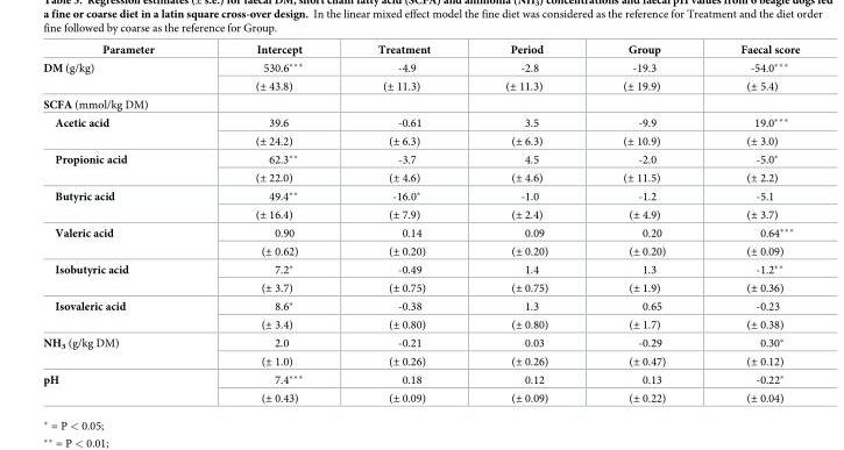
<table><thead><tr><td>Parameter</td><td>Intercept</td><td>Treatment</td><td>Period</td><td>Group</td><td>Faecal score</td></tr></thead><tbody><tr><td rowspan="2">DM (g/kg)</td><td>530.6***</td><td>-4.9</td><td>-2.8</td><td>-19.3</td><td>-54.0***</td></tr><tr><td>(± 43.8)</td><td>(± 11.3)</td><td>(± 11.3)</td><td>(± 19.9)</td><td>(± 5.4)</td></tr><tr><td colspan="6">SCFA (mmol/kg DM)</td></tr><tr><td rowspan="2">Acetic acid</td><td>39.6</td><td>-0.61</td><td>3.5</td><td>-9.9</td><td>19.0***</td></tr><tr><td>(± 24.2)</td><td>(± 6.3)</td><td>(± 6.3)</td><td>(± 10.9)</td><td>(± 3.0)</td></tr><tr><td rowspan="2">Propionic acid</td><td>62.3**</td><td>-3.7</td><td>4.5</td><td>-2.0</td><td>-5.0*</td></tr><tr><td>(± 22.0)</td><td>(± 4.6)</td><td>(± 4.6)</td><td>(± 11.5)</td><td>(± 2.2)</td></tr><tr><td rowspan="2">Butyric acid</td><td>49.4**</td><td>-16.0*</td><td>-1.0</td><td>-1.2</td><td>-5.1</td></tr><tr><td>(± 16.4)</td><td>(± 7.9)</td><td>(± 2.4)</td><td>(± 4.9)</td><td>(± 3.7)</td></tr><tr><td rowspan="2">Valeric acid</td><td>0.90</td><td>0.14</td><td>0.09</td><td>0.20</td><td>0.64***</td></tr><tr><td>(± 0.62)</td><td>(± 0.20)</td><td>(± 0.20)</td><td>(± 0.20)</td><td>(± 0.09)</td></tr><tr><td rowspan="2">Isobutyric acid</td><td>7.2*</td><td>-0.49</td><td>1.4</td><td>1.3</td><td>-1.2**</td></tr><tr><td>(± 3.7)</td><td>(± 0.75)</td><td>(± 0.75)</td><td>(± 1.9)</td><td>(± 0.36)</td></tr><tr><td rowspan="2">Isovaleric acid</td><td>8.6*</td><td>-0.38</td><td>1.3</td><td>0.65</td><td>-0.23</td></tr><tr><td>(± 3.4)</td><td>(± 0.80)</td><td>(± 0.80)</td><td>(± 1.7)</td><td>(± 0.38)</td></tr><tr><td rowspan="2">NH<sub>3</sub> (g/kg DM)</td><td>2.0</td><td>-0.21</td><td>0.03</td><td>-0.29</td><td>0.30*</td></tr><tr><td>(± 1.0)</td><td>(± 0.26)</td><td>(± 0.26)</td><td>(± 0.47)</td><td>(± 0.12)</td></tr><tr><td rowspan="2">pH</td><td>7.4***</td><td>0.18</td><td>0.12</td><td>0.13</td><td>-0.22*</td></tr><tr><td>(± 0.43)</td><td>(± 0.09)</td><td>(± 0.09)</td><td>(± 0.22)</td><td>(± 0.04)</td></tr></tbody></table>